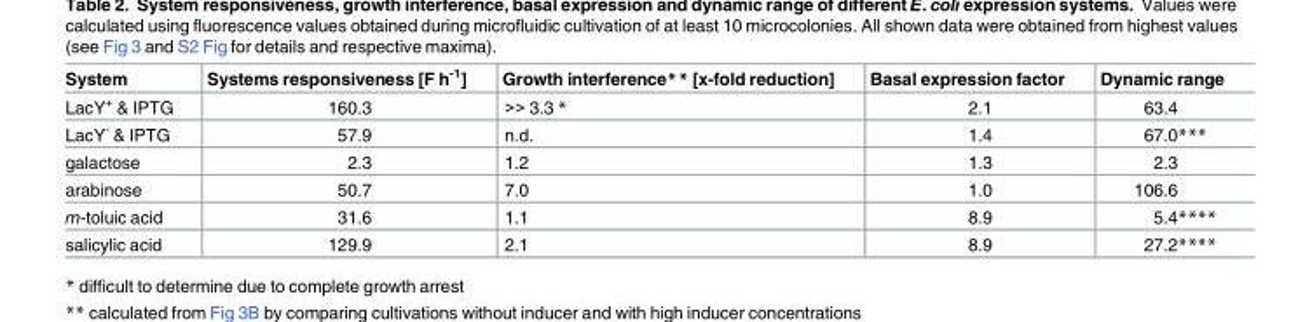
<table><thead><tr><td>System</td><td>Systems responsiveness [F h<sup>-1</sup>]</td><td>Growth interference** [x-fold reduction]</td><td>Basal expression factor</td><td>Dynamic range</td></tr></thead><tbody><tr><td>LacY<sup>+</sup> &amp; IPTG</td><td>160.3</td><td>&gt;&gt; 3.3 *</td><td>2.1</td><td>63.4</td></tr><tr><td>LacY<sup>-</sup> &amp; IPTG</td><td>57.9</td><td>n.d.</td><td>1.4</td><td>67.0***</td></tr><tr><td>galactose</td><td>2.3</td><td>1.2</td><td>1.3</td><td>2.3</td></tr><tr><td>arabinose</td><td>50.7</td><td>7.0</td><td>1.0</td><td>106.6</td></tr><tr><td>m-toluic acid</td><td>31.6</td><td>1.1</td><td>8.9</td><td>5.4****</td></tr><tr><td>salicylic acid</td><td>129.9</td><td>2.1</td><td>8.9</td><td>27.2****</td></tr></tbody></table>